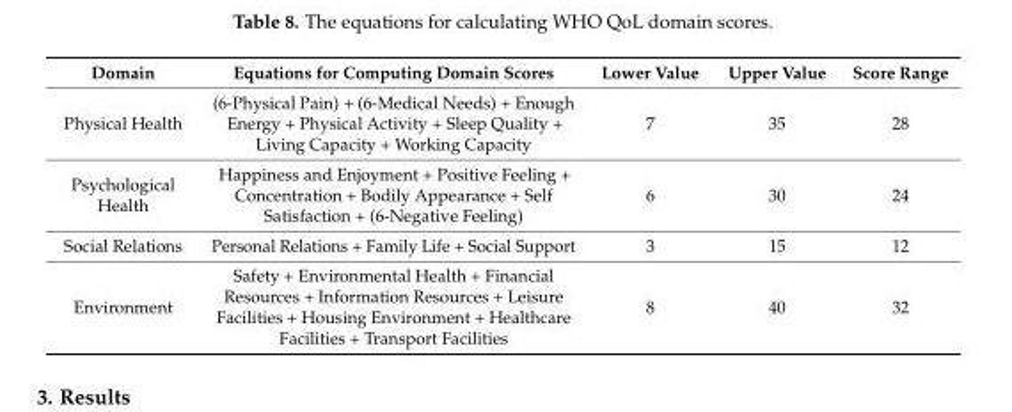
<table><thead><tr><td>Domain</td><td>Equations for Computing Domain Scores</td><td>Lower Value</td><td>Upper Value</td><td>Score Range</td></tr></thead><tbody><tr><td>Physical Health</td><td>(6-Physical Pain) + (6-Medical Needs) + Enough Energy + Physical Activity + Sleep Quality + Living Capacity + Working Capacity</td><td>7</td><td>35</td><td>28</td></tr><tr><td>Psychological Health</td><td>Happiness and Enjoyment + Positive Feeling + Concentration + Bodily Appearance + Self Satisfaction + (6-Negative Feeling)</td><td>6</td><td>30</td><td>24</td></tr><tr><td>Social Relations</td><td>Personal Relations + Family Life + Social Support</td><td>3</td><td>15</td><td>12</td></tr><tr><td>Environment</td><td>Safety + Environmental Health + Financial Resources + Information Resources + Leisure Facilities + Housing Environment + Healthcare Facilities + Transport Facilities</td><td>8</td><td>40</td><td>32</td></tr></tbody></table>